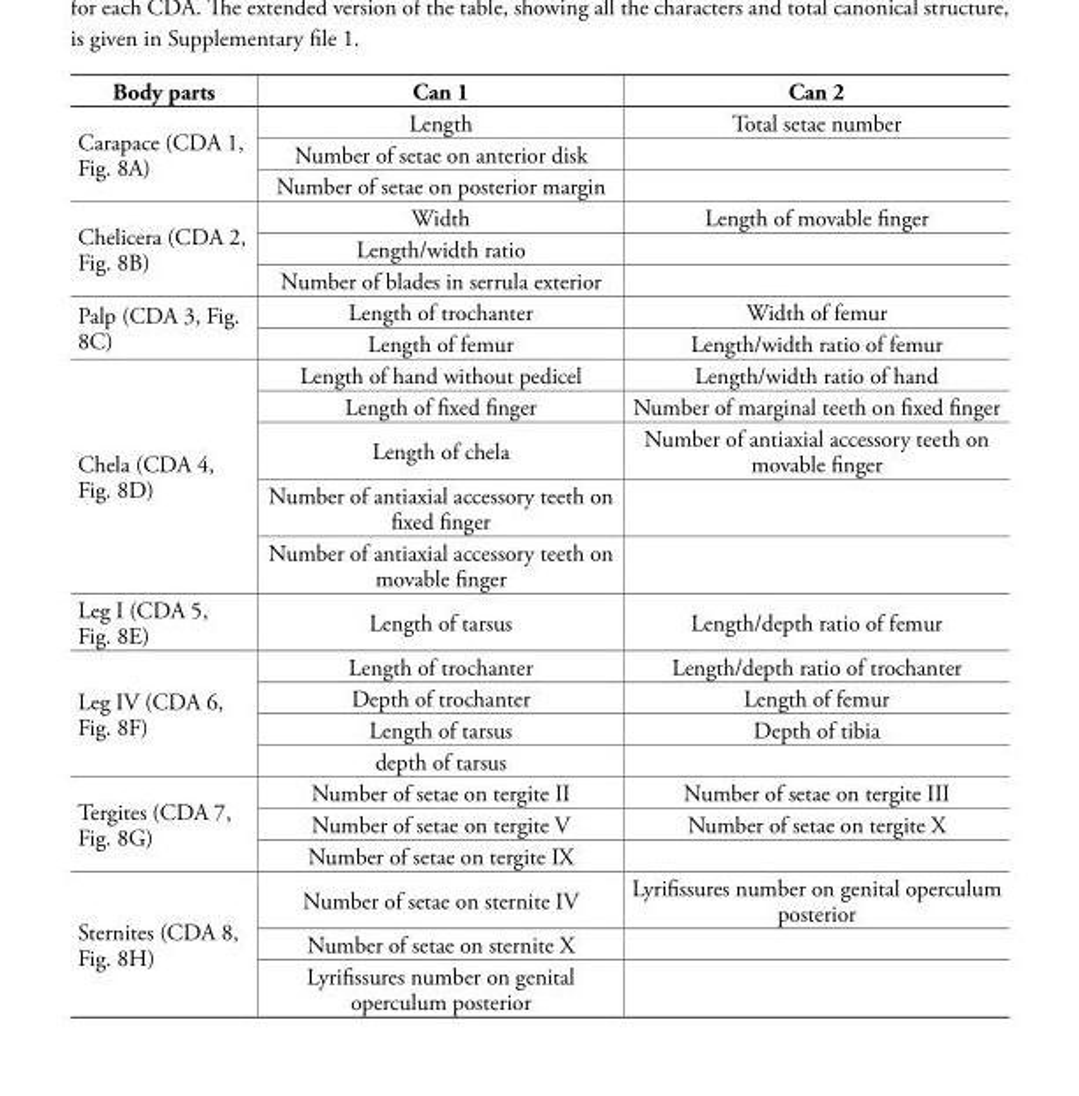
<table><thead><tr><td>Body parts</td><td>Can 1</td><td>Can 2</td></tr></thead><tbody><tr><td rowspan="3">Carapace (CDA 1, Fig. 8A)</td><td>Length</td><td>Total setae number</td></tr><tr><td>Number of setae on anterior disk</td><td></td></tr><tr><td>Number of setae on posterior margin</td><td></td></tr><tr><td rowspan="3">Chelicera (CDA 2, Fig. 8B)</td><td>Width</td><td>Length of movable finger</td></tr><tr><td>Length/width ratio</td><td></td></tr><tr><td>Number of blades in serrula exterior</td><td></td></tr><tr><td rowspan="2">Palp (CDA 3, Fig. 8C)</td><td>Length of trochanter</td><td>Width of femur</td></tr><tr><td>Length of femur</td><td>Length/width ratio of femur</td></tr><tr><td rowspan="5">Chela (CDA 4, Fig. 8D)</td><td>Length of hand without pedicel</td><td>Length/width ratio of hand</td></tr><tr><td>Length of fixed finger</td><td>Number of marginal teeth on fixed finger</td></tr><tr><td>Length of chela</td><td>Number of antiaxial accessory teeth on movable finger</td></tr><tr><td>Number of antiaxial accessory teeth on fixed finger</td><td></td></tr><tr><td>Number of antiaxial accessory teeth on movable finger</td><td></td></tr><tr><td>Leg I (CDA 5, Fig. 8E)</td><td>Length of tarsus</td><td>Length/depth ratio of femur</td></tr><tr><td rowspan="4">Leg IV (CDA 6, Fig. 8F)</td><td>Length of trochanter</td><td>Length/depth ratio of trochanter</td></tr><tr><td>Depth of trochanter</td><td>Length of femur</td></tr><tr><td>Length of tarsus</td><td>Depth of tibia</td></tr><tr><td>depth of tarsus</td><td></td></tr><tr><td rowspan="3">Tergites (CDA 7, Fig. 8G)</td><td>Number of setae on tergite II</td><td>Number of setae on tergite III</td></tr><tr><td>Number of setae on tergite V</td><td>Number of setae on tergite X</td></tr><tr><td>Number of setae on tergite IX</td><td></td></tr><tr><td rowspan="3">Sternites (CDA 8, Fig. 8H)</td><td>Number of setae on sternite IV</td><td>Lyrifissures number on genital operculum posterior</td></tr><tr><td>Number of setae on sternite X</td><td></td></tr><tr><td>Lyrifissures number on genital operculum posterior</td><td></td></tr></tbody></table>